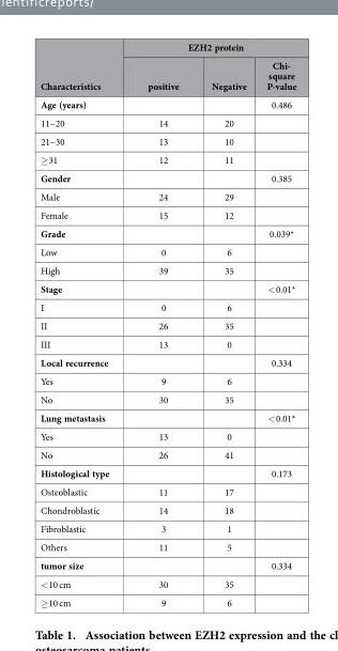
<table><thead><tr><td rowspan="2">Characteristics</td><td colspan="3">EZH2 protein</td></tr><tr><td>positive</td><td>Negative</td><td>Chi- square P-value</td></tr></thead><tbody><tr><td>Age (years)</td><td></td><td></td><td>0.486</td></tr><tr><td>11~20</td><td>14</td><td>20</td><td></td></tr><tr><td>21~30</td><td>13</td><td>10</td><td></td></tr><tr><td>≥ 31</td><td>12</td><td>11</td><td></td></tr><tr><td>Gender</td><td></td><td></td><td>0.385</td></tr><tr><td>Male</td><td>24</td><td>29</td><td></td></tr><tr><td>Female</td><td>15</td><td>12</td><td></td></tr><tr><td>Grade</td><td></td><td></td><td>0.039*</td></tr><tr><td>Low</td><td>0</td><td>6</td><td></td></tr><tr><td>High</td><td>39</td><td>35</td><td></td></tr><tr><td>Stage</td><td></td><td></td><td>&lt; 0.01*</td></tr><tr><td>I</td><td>0</td><td>6</td><td></td></tr><tr><td>II</td><td>26</td><td>35</td><td></td></tr><tr><td>III</td><td>13</td><td>0</td><td></td></tr><tr><td>Local recurrence</td><td></td><td></td><td>0.334</td></tr><tr><td>Yes</td><td>9</td><td>6</td><td></td></tr><tr><td>No</td><td>30</td><td>35</td><td></td></tr><tr><td>Lung metastasis</td><td></td><td></td><td>&lt; 0.01*</td></tr><tr><td>Yes</td><td>13</td><td>0</td><td></td></tr><tr><td>No</td><td>26</td><td>41</td><td></td></tr><tr><td>Histological type</td><td></td><td></td><td>0.173</td></tr><tr><td>Osteoblastic</td><td>11</td><td>17</td><td></td></tr><tr><td>Chondroblastic</td><td>14</td><td>18</td><td></td></tr><tr><td>Fibroblastic</td><td>3</td><td>1</td><td></td></tr><tr><td>Others</td><td>11</td><td>5</td><td></td></tr><tr><td>tumor size</td><td></td><td></td><td>0.334</td></tr><tr><td>&lt; 10 cm</td><td>30</td><td>35</td><td></td></tr><tr><td>≥ 10 cm</td><td>9</td><td>6</td><td></td></tr></tbody></table>